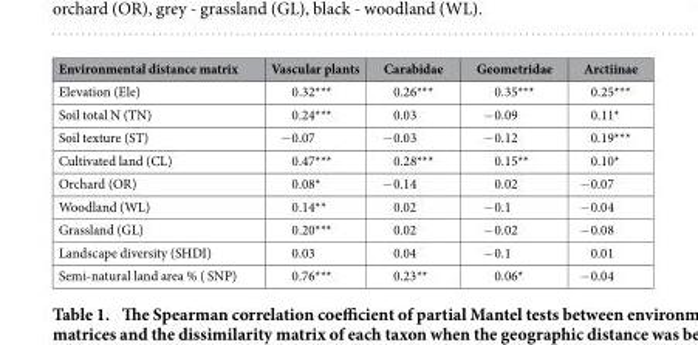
<table><thead><tr><td>Environmental distance matrix</td><td>Vascular plants</td><td>Carabidae</td><td>Geometridae</td><td>Arctiinae</td></tr></thead><tbody><tr><td>Elevation (Ele)</td><td>0.32***</td><td>0.26***</td><td>0.35***</td><td>0.25***</td></tr><tr><td>Soil total N (TN)</td><td>0.24***</td><td>0.03</td><td>− 0.09</td><td>0.11*</td></tr><tr><td>Soil texture (ST)</td><td>− 0.07</td><td>− 0.03</td><td>− 0.12</td><td>0.19***</td></tr><tr><td>Cultivated land (CL)</td><td>0.47***</td><td>0.28***</td><td>0.15**</td><td>0.10*</td></tr><tr><td>Orchard (OR)</td><td>0.08*</td><td>− 0.14</td><td>0.02</td><td>− 0.07</td></tr><tr><td>Woodland (WL)</td><td>0.14**</td><td>0.02</td><td>− 0.1</td><td>− 0.04</td></tr><tr><td>Grassland (GL)</td><td>0.20***</td><td>0.02</td><td>− 0.02</td><td>− 0.08</td></tr><tr><td>Landscape diversity (SHDI)</td><td>0.03</td><td>0.04</td><td>− 0.1</td><td>0.01</td></tr><tr><td>Semi-natural land area % ( SNP)</td><td>0.76***</td><td>0.23**</td><td>0.06*</td><td>− 0.04</td></tr></tbody></table>